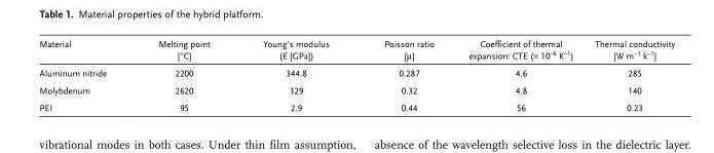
<table><thead><tr><td>Material</td><td>Melting point [°C]</td><td>Young’s modulus (E [GPa])</td><td>Poisson ratio [µ]</td><td>Coefficient of thermal expansion: CTE (× 10<sup>–6</sup> K<sup>–1</sup>)</td><td>Thermal conductivity [W m<sup>−1</sup> k<sup>−1</sup>]</td></tr></thead><tbody><tr><td>Aluminum nitride</td><td>2200</td><td>344.8</td><td>0.287</td><td>4.6</td><td>285</td></tr><tr><td>Molybdenum</td><td>2620</td><td>329</td><td>0.32</td><td>4.8</td><td>140</td></tr><tr><td>PEI</td><td>95</td><td>2.9</td><td>0.44</td><td>56</td><td>0.23</td></tr></tbody></table>